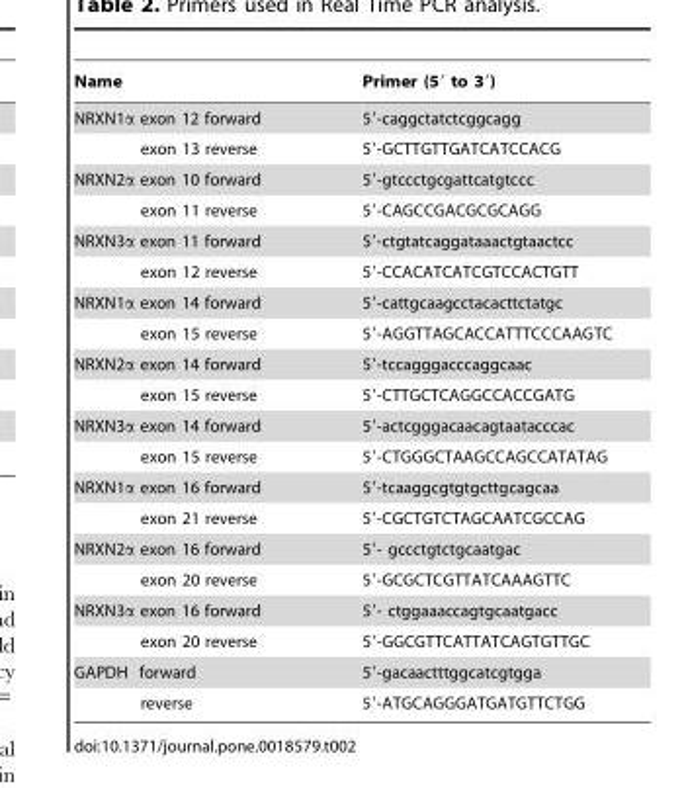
<table><thead><tr><td>Name</td><td>Primer (5′ to 3′)</td></tr></thead><tbody><tr><td>NRXN1α exon 12 forward</td><td>5′-caggctatctcggcagg</td></tr><tr><td>exon 13 reverse</td><td>5′-GCTTGTTGATCATCCACG</td></tr><tr><td>NRXN2α exon 10 forward</td><td>5′-gtccctgcgattcatgtccc</td></tr><tr><td>exon 11 reverse</td><td>5′-CAGCCGACGCGCAGG</td></tr><tr><td>NRXN3α exon 11 forward</td><td>5′-ctgtatcaggataaactgtaactcc</td></tr><tr><td>exon 12 reverse</td><td>5′-CCACATCATCGTCCACTGTT</td></tr><tr><td>NRXN1α exon 14 forward</td><td>5′-cattgcaagcctacacttctatgc</td></tr><tr><td>exon 15 reverse</td><td>5′-AGGTTAGCACCATTTCCCAAGTC</td></tr><tr><td>NRXN2α exon 14 forward</td><td>5′-tccagggacccaggcaac</td></tr><tr><td>exon 15 reverse</td><td>5′-CTTGCTCAGGCCACCGATG</td></tr><tr><td>NRXN3α exon 14 forward</td><td>5′-actcgggacaacagtaatacccac</td></tr><tr><td>exon 15 reverse</td><td>5′-CTGGGCTAAGCCAGCCATATAG</td></tr><tr><td>NRXN1α exon 16 forward</td><td>5′-tcaaggcgtgtgcttgcagcaa</td></tr><tr><td>exon 21 reverse</td><td>5′-CGCTGTCTAGCAATCGCCAG</td></tr><tr><td>NRXN2α exon 16 forward</td><td>5′- gccctgtctgcaatgac</td></tr><tr><td>exon 20 reverse</td><td>5′-GCGCTCGTTATCAAAGTTC</td></tr><tr><td>NRXN3α exon 16 forward</td><td>5′- ctggaaaccagtgcaatgacc</td></tr><tr><td>exon 20 reverse</td><td>5′-GGCGTTCATTATCAGTGTTGC</td></tr><tr><td>GAPDH forward</td><td>5′-gacaactttggcatcgtgga</td></tr><tr><td>reverse</td><td>5′-ATGCAGGGATGATGTTCTGG</td></tr></tbody></table>